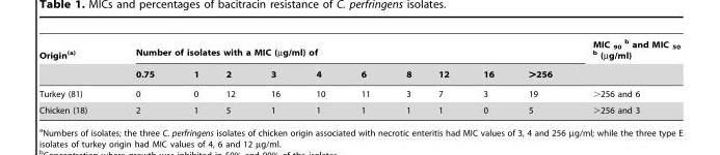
<table><thead><tr><td rowspan="2">Origin<sup>(a)</sup></td><td colspan="10">Number of isolates with a MIC (µg/ml) of</td><td rowspan="2">MIC <sub>90</sub> b and MIC <sub>50</sub> b (µg/ml)</td></tr><tr><td>0.75</td><td>1</td><td>2</td><td>3</td><td>4</td><td>6</td><td>8</td><td>12</td><td>16</td><td>&gt;256</td></tr></thead><tbody><tr><td>Turkey (81)</td><td>0</td><td>0</td><td>12</td><td>16</td><td>10</td><td>11</td><td>3</td><td>7</td><td>3</td><td>19</td><td>&gt;256 and 6</td></tr><tr><td>Chicken (18)</td><td>2</td><td>1</td><td>5</td><td>1</td><td>1</td><td>1</td><td>1</td><td>1</td><td>0</td><td>5</td><td>&gt;256 and 3</td></tr></tbody></table>